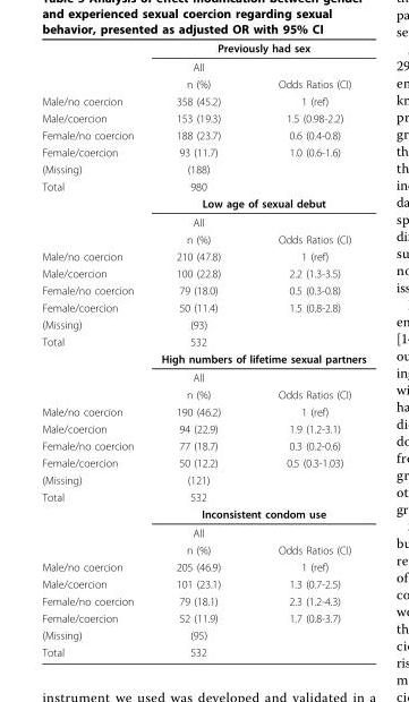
<table><thead><tr><td rowspan="2"></td><td colspan="2">Previously had sex</td></tr><tr><td>All</td><td></td></tr></thead><tbody><tr><td></td><td>n (%)</td><td>Odds Ratios (CI)</td></tr><tr><td>Male/no coercion</td><td>358 (45.2)</td><td>1 (ref)</td></tr><tr><td>Male/coercion</td><td>153 (19.3)</td><td>1.5 (0.98-2.2)</td></tr><tr><td>Female/no coercion</td><td>188 (23.7)</td><td>0.6 (0.4-0.8)</td></tr><tr><td>Female/coercion</td><td>93 (11.7)</td><td>1.0 (0.6-1.6)</td></tr><tr><td>(Missing)</td><td>(188)</td><td></td></tr><tr><td rowspan="4">Total</td><td>980</td><td></td></tr><tr><td colspan="2">Low age of sexual debut</td></tr><tr><td>All</td><td></td></tr><tr><td>n (%)</td><td>Odds Ratios (CI)</td></tr><tr><td>Male/no coercion</td><td>210 (47.8)</td><td>1 (ref)</td></tr><tr><td>Male/coercion</td><td>100 (22.8)</td><td>2.2 (1.3-3.5)</td></tr><tr><td>Female/no coercion</td><td>79 (18.0)</td><td>0.5 (0.3-0.8)</td></tr><tr><td>Female/coercion</td><td>50 (11.4)</td><td>1.5 (0.8-2.8)</td></tr><tr><td>(Missing)</td><td>(93)</td><td></td></tr><tr><td rowspan="4">Total</td><td>532</td><td></td></tr><tr><td colspan="2">High numbers of lifetime sexual partners</td></tr><tr><td>All</td><td></td></tr><tr><td>n (%)</td><td>Odds Ratios (CI)</td></tr><tr><td>Male/no coercion</td><td>190 (46.2)</td><td>1 (ref)</td></tr><tr><td>Male/coercion</td><td>94 (22.9)</td><td>1.9 (1.2-3.1)</td></tr><tr><td>Female/no coercion</td><td>77 (18.7)</td><td>0.3 (0.2-0.6)</td></tr><tr><td>Female/coercion</td><td>50 (12.2)</td><td>0.5 (0.3-1.03)</td></tr><tr><td>(Missing)</td><td>(121)</td><td></td></tr><tr><td rowspan="4">Total</td><td>532</td><td></td></tr><tr><td colspan="2">Inconsistent condom use</td></tr><tr><td>All</td><td></td></tr><tr><td>n (%)</td><td>Odds Ratios (CI)</td></tr><tr><td>Male/no coercion</td><td>205 (46.9)</td><td>1 (ref)</td></tr><tr><td>Male/coercion</td><td>101 (23.1)</td><td>1.3 (0.7-2.5)</td></tr><tr><td>Female/no coercion</td><td>79 (18.1)</td><td>2.3 (1.2-4.3)</td></tr><tr><td>Female/coercion</td><td>52 (11.9)</td><td>1.7 (0.8-3.7)</td></tr><tr><td>(Missing)</td><td>(95)</td><td></td></tr><tr><td>Total</td><td>532</td><td></td></tr></tbody></table>